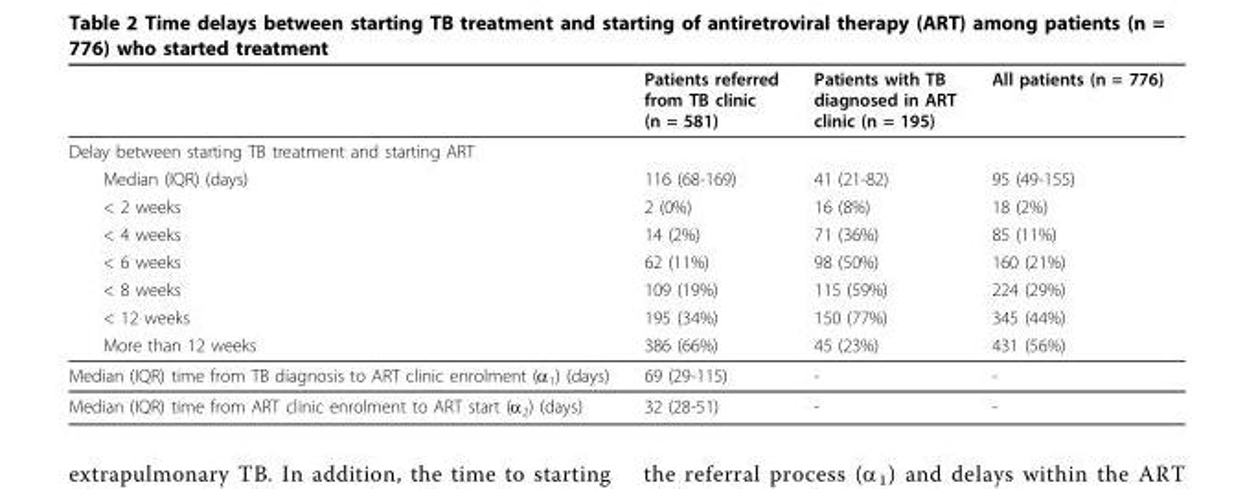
<table><thead><tr><td></td><td>Patients referred from TB clinic (n = 581)</td><td>Patients with TB diagnosed in ART clinic (n = 195)</td><td>All patients (n = 776)</td></tr></thead><tbody><tr><td colspan="4">Delay between starting TB treatment and starting ART</td></tr><tr><td>Median (IQR) (days)</td><td>116 (68-169)</td><td>41 (21-82)</td><td>95 (49-155)</td></tr><tr><td>&lt; 2 weeks</td><td>2 (0%)</td><td>16 (8%)</td><td>18 (2%)</td></tr><tr><td>&lt; 4 weeks</td><td>14 (2%)</td><td>71 (36%)</td><td>85 (11%)</td></tr><tr><td>&lt; 6 weeks</td><td>62 (11%)</td><td>98 (50%)</td><td>160 (21%)</td></tr><tr><td>&lt; 8 weeks</td><td>109 (19%)</td><td>115 (59%)</td><td>224 (29%)</td></tr><tr><td>&lt; 12 weeks</td><td>195 (34%)</td><td>150 (77%)</td><td>345 (44%)</td></tr><tr><td>More than 12 weeks</td><td>386 (66%)</td><td>45 (23%)</td><td>431 (56%)</td></tr><tr><td>Median (IQR) time from TB diagnosis to ART clinic enrolment (α<sub>1</sub>) (days)</td><td>69 (29-115)</td><td>-</td><td>-</td></tr><tr><td>Median (IQR) time from ART clinic enrolment to ART start (α<sub>2</sub>) (days)</td><td>32 (28-51)</td><td>-</td><td>-</td></tr></tbody></table>